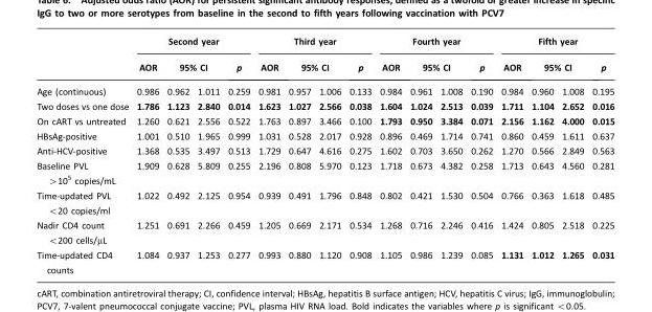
<table><thead><tr><td rowspan="3">Age (continuous)</td><td colspan="4">Second year</td><td colspan="4">Third year</td><td colspan="4">Fourth year</td><td colspan="4">Fifth year</td></tr><tr><td rowspan="2">AOR 0.986</td><td colspan="2">95% CI</td><td rowspan="2">p 0.259</td><td rowspan="2">AOR 0.981</td><td colspan="2">95% CI</td><td rowspan="2">p 0.133</td><td rowspan="2">AOR 0.984</td><td colspan="2">95% CI</td><td rowspan="2">p 0.190</td><td rowspan="2">AOR 0.984</td><td colspan="2">95% CI</td><td rowspan="2">p 0.195</td></tr><tr><td>0.962</td><td>1.011</td><td>0.957</td><td>1.006</td><td>0.961</td><td>1.008</td><td>0.960</td><td>1.008</td></tr></thead><tbody><tr><td>Two doses vs one dose</td><td>1.786</td><td>1.123</td><td>2.840</td><td>0.014</td><td>1.623</td><td>1.027</td><td>2.566</td><td>0.038</td><td>1.604</td><td>1.024</td><td>2.513</td><td>0.039</td><td>1.711</td><td>1.104</td><td>2.652</td><td>0.016</td></tr><tr><td>On cART vs untreated</td><td>1.260</td><td>0.621</td><td>2.556</td><td>0.522</td><td>1.763</td><td>0.897</td><td>3.466</td><td>0.100</td><td>1.793</td><td>0.950</td><td>3.384</td><td>0.071</td><td>2.156</td><td>1.162</td><td>4.000</td><td>0.015</td></tr><tr><td>HBsAg-positive</td><td>1.001</td><td>0.510</td><td>1.965</td><td>0.999</td><td>1.031</td><td>0.528</td><td>2.017</td><td>0.928</td><td>0.896</td><td>0.469</td><td>1.714</td><td>0.741</td><td>0.860</td><td>0.459</td><td>1.611</td><td>0.637</td></tr><tr><td>Anti-HCV-positive</td><td>1.368</td><td>0.535</td><td>3.497</td><td>0.513</td><td>1.729</td><td>0.647</td><td>4.616</td><td>0.275</td><td>1.602</td><td>0.703</td><td>3.650</td><td>0.262</td><td>1.270</td><td>0.566</td><td>2.849</td><td>0.563</td></tr><tr><td>Baseline PVL &gt;10<sup>5</sup> copies/mL</td><td>1.909</td><td>0.628</td><td>5.809</td><td>0.255</td><td>2.196</td><td>0.808</td><td>5.970</td><td>0.123</td><td>1.718</td><td>0.673</td><td>4.382</td><td>0.258</td><td>1.713</td><td>0.643</td><td>4.560</td><td>0.281</td></tr><tr><td>Time-updated PVL &lt;20 copies/ml</td><td>1.022</td><td>0.492</td><td>2.125</td><td>0.954</td><td>0.939</td><td>0.491</td><td>1.796</td><td>0.848</td><td>0.802</td><td>0.421</td><td>1.530</td><td>0.504</td><td>0.766</td><td>0.363</td><td>1.618</td><td>0.485</td></tr><tr><td>Nadir CD4 count &lt;200 cells/µL</td><td>1.251</td><td>0.691</td><td>2.266</td><td>0.459</td><td>1.205</td><td>0.669</td><td>2.171</td><td>0.534</td><td>1.268</td><td>0.716</td><td>2.246</td><td>0.416</td><td>1.424</td><td>0.805</td><td>2.518</td><td>0.225</td></tr><tr><td>Time-updated CD4 counts</td><td>1.084</td><td>0.937</td><td>1.253</td><td>0.277</td><td>0.993</td><td>0.880</td><td>1.120</td><td>0.908</td><td>1.105</td><td>0.986</td><td>1.239</td><td>0.085</td><td>1.131</td><td>1.012</td><td>1.265</td><td>0.031</td></tr></tbody></table>